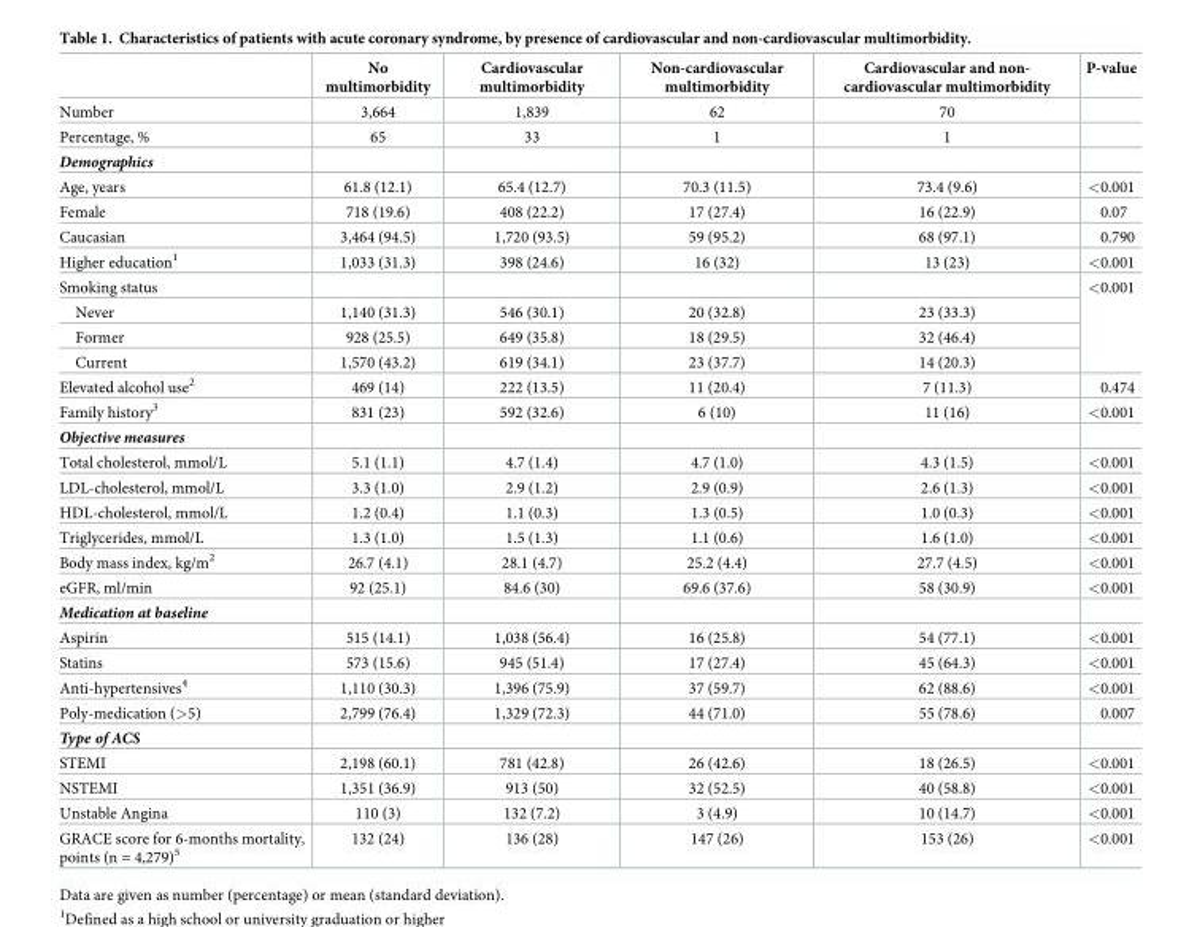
<table><thead><tr><td></td><td>No multimorbidity</td><td>Cardiovascular multimorbidity</td><td>Non-cardiovascular multimorbidity</td><td>Cardiovascular and non- cardiovascular multimorbidity</td><td>P-value</td></tr></thead><tbody><tr><td>Number</td><td>3,664</td><td>1,839</td><td>62</td><td>70</td><td></td></tr><tr><td>Percentage, %</td><td>65</td><td>33</td><td>1</td><td>1</td><td></td></tr><tr><td colspan="6">Demographics</td></tr><tr><td>Age, years</td><td>61.8 (12.1)</td><td>65.4 (12.7)</td><td>70.3 (11.5)</td><td>73.4 (9.6)</td><td>&lt;0.001</td></tr><tr><td>Female</td><td>718 (19.6)</td><td>408 (22.2)</td><td>17 (27.4)</td><td>16 (22.9)</td><td>0.07</td></tr><tr><td>Caucasian</td><td>3,464 (94.5)</td><td>1,720 (93.5)</td><td>59 (95.2)</td><td>68 (97.1)</td><td>0.790</td></tr><tr><td>Higher education<sup>1</sup></td><td>1,033 (31.3)</td><td>398 (24.6)</td><td>16 (32)</td><td>13 (23)</td><td>&lt;0.001</td></tr><tr><td colspan="5">Smoking status</td><td rowspan="4">&lt;0.001</td></tr><tr><td>Never</td><td>1,140 (31.3)</td><td>546 (30.1)</td><td>20 (32.8)</td><td>23 (33.3)</td></tr><tr><td>Former</td><td>928 (25.5)</td><td>649 (35.8)</td><td>18 (29.5)</td><td>32 (46.4)</td></tr><tr><td>Current</td><td>1,570 (43.2)</td><td>619 (34.1)</td><td>23 (37.7)</td><td>14 (20.3)</td></tr><tr><td>Elevated alcohol use<sup>2</sup></td><td>469 (14)</td><td>222 (13.5)</td><td>11 (20.4)</td><td>7 (11.3)</td><td>0.474</td></tr><tr><td>Family history<sup>3</sup></td><td>831 (23)</td><td>592 (32.6)</td><td>6 (10)</td><td>11 (16)</td><td>&lt;0.001</td></tr><tr><td colspan="6">Objective measures</td></tr><tr><td>Total cholesterol, mmol/L</td><td>5.1 (1.1)</td><td>4.7 (1.4)</td><td>4.7 (1.0)</td><td>4.3 (1.5)</td><td>&lt;0.001</td></tr><tr><td>LDL-cholesterol, mmol/L</td><td>3.3 (1.0)</td><td>2.9 (1.2)</td><td>2.9 (0.9)</td><td>2.6 (1.3)</td><td>&lt;0.001</td></tr><tr><td>HDL-cholesterol, mmol/L</td><td>1.2 (0.4)</td><td>1.1 (0.3)</td><td>1.3 (0.5)</td><td>1.0 (0.3)</td><td>&lt;0.001</td></tr><tr><td>Triglycerides, mmol/L</td><td>1.3 (1.0)</td><td>1.5 (1.3)</td><td>1.1 (0.6)</td><td>1.6 (1.0)</td><td>&lt;0.001</td></tr><tr><td>Body mass index, kg/m<sup>2</sup></td><td>26.7 (4.1)</td><td>28.1 (4.7)</td><td>25.2 (4.4)</td><td>27.7 (4.5)</td><td>&lt;0.001</td></tr><tr><td>eGFR, ml/min</td><td>92 (25.1)</td><td>84.6 (30)</td><td>69.6 (37.6)</td><td>58 (30.9)</td><td>&lt;0.001</td></tr><tr><td colspan="6">Medication at baseline</td></tr><tr><td>Aspirin</td><td>515 (14.1)</td><td>1,038 (56.4)</td><td>16 (25.8)</td><td>54 (77.1)</td><td>&lt;0.001</td></tr><tr><td>Statins</td><td>573 (15.6)</td><td>945 (51.4)</td><td>17 (27.4)</td><td>45 (64.3)</td><td>&lt;0.001</td></tr><tr><td>Anti-hypertensives<sup>4</sup></td><td>1,110 (30.3)</td><td>1,396 (75.9)</td><td>37 (59.7)</td><td>62 (88.6)</td><td>&lt;0.001</td></tr><tr><td>Poly-medication (&gt;5)</td><td>2,799 (76.4)</td><td>1,329 (72.3)</td><td>44 (71.0)</td><td>55 (78.6)</td><td>0.007</td></tr><tr><td colspan="6">Type of ACS</td></tr><tr><td>STEMI</td><td>2,198 (60.1)</td><td>781 (42.8)</td><td>26 (42.6)</td><td>18 (26.5)</td><td>&lt;0.001</td></tr><tr><td>NSTEMI</td><td>1,351 (36.9)</td><td>913 (50)</td><td>32 (52.5)</td><td>40 (58.8)</td><td>&lt;0.001</td></tr><tr><td>Unstable Angina</td><td>110 (3)</td><td>132 (7.2)</td><td>3 (4.9)</td><td>10 (14.7)</td><td>&lt;0.001</td></tr><tr><td>GRACE score for 6-months mortality, points (n = 4,279)<sup>5</sup></td><td>132 (24)</td><td>136 (28)</td><td>147 (26)</td><td>153 (26)</td><td>&lt;0.001</td></tr></tbody></table>